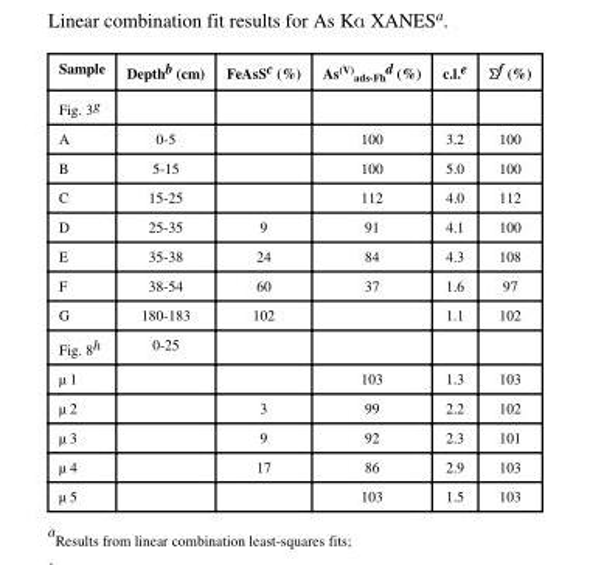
<table><thead><tr><td>Sample</td><td>Depth<sup>b</sup> (cm)</td><td>FeAsS<sup>c</sup> (%)</td><td>As<sup>(V)</sup><sub>ads-Fh</sub><sup>d</sup> (%)</td><td>c.l.<sup>e</sup></td><td>Σ<sup>f</sup> (%)</td></tr></thead><tbody><tr><td colspan="6">Fig. 3<sup>g</sup></td></tr><tr><td>A</td><td>0-5</td><td></td><td>100</td><td>3.2</td><td>100</td></tr><tr><td>B</td><td>5-15</td><td></td><td>100</td><td>5.0</td><td>100</td></tr><tr><td>C</td><td>15-25</td><td></td><td>112</td><td>4.0</td><td>112</td></tr><tr><td>D</td><td>25-35</td><td>9</td><td>91</td><td>4.1</td><td>100</td></tr><tr><td>E</td><td>35-38</td><td>24</td><td>84</td><td>4.3</td><td>108</td></tr><tr><td>F</td><td>38-54</td><td>60</td><td>37</td><td>1.6</td><td>97</td></tr><tr><td>G</td><td>180-183</td><td>102</td><td></td><td>1.1</td><td>102</td></tr><tr><td>Fig. 8<sup>h</sup></td><td>0-25</td><td></td><td></td><td></td><td></td></tr><tr><td>μ 1</td><td></td><td></td><td>103</td><td>1.3</td><td>103</td></tr><tr><td>μ 2</td><td></td><td>3</td><td>99</td><td>2.2</td><td>102</td></tr><tr><td>μ 3</td><td></td><td>9</td><td>92</td><td>2.3</td><td>101</td></tr><tr><td>μ 4</td><td></td><td>17</td><td>86</td><td>2.9</td><td>103</td></tr><tr><td>μ 5</td><td></td><td></td><td>103</td><td>1.5</td><td>103</td></tr></tbody></table>